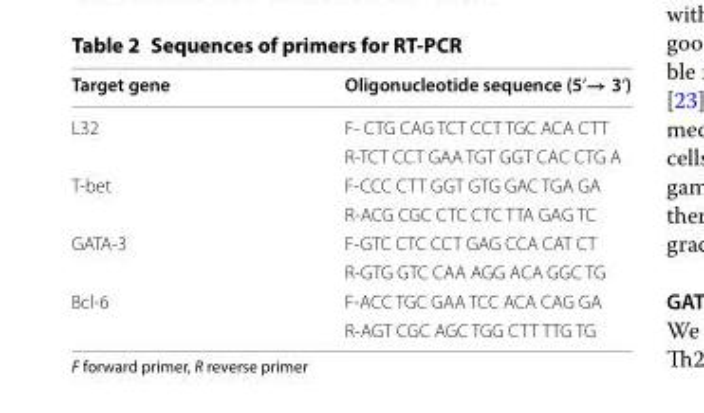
<table><thead><tr><td>Target gene</td><td>Oligonucleotide sequence (5ʹ→ 3ʹ)</td></tr></thead><tbody><tr><td rowspan="2">L32</td><td>F‑ CTG CAG TCT CCT TGC ACA CTT</td></tr><tr><td>R‑TCT CCT GAA TGT GGT CAC CTG A</td></tr><tr><td rowspan="2">T‑bet</td><td>F‑CCC CTT GGT GTG GAC TGA GA</td></tr><tr><td>R‑ACG CGC CTC CTC TTA GAG TC</td></tr><tr><td rowspan="2">GATA‑3</td><td>F‑GTC CTC CCT GAG CCA CAT CT</td></tr><tr><td>R‑GTG GTC CAA AGG ACA GGC TG</td></tr><tr><td rowspan="2">Bcl‑6</td><td>F‑ACC TGC GAA TCC ACA CAG GA</td></tr><tr><td>R‑AGT CGC AGC TGG CTT TTG TG</td></tr></tbody></table>